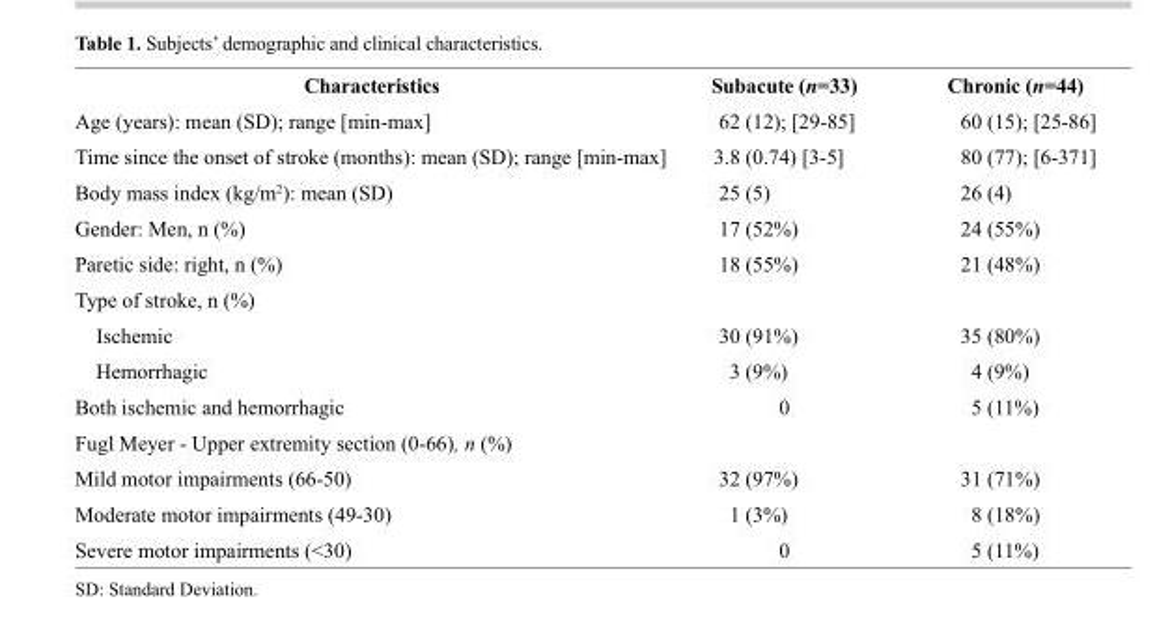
<table><thead><tr><td>Characteristics</td><td>Subacute (n=33)</td><td>Chronic (n=44)</td></tr></thead><tbody><tr><td>Age (years): mean (SD); range [min-max]</td><td>62 (12); [29-85]</td><td>60 (15); [25-86]</td></tr><tr><td>Time since the onset of stroke (months): mean (SD); range [min-max]</td><td>3.8 (0.74) [3-5]</td><td>80 (77); [6-371]</td></tr><tr><td>Body mass index (kg/m<sup>2)</sup>: mean (SD)</td><td>25 (5)</td><td>26 (4)</td></tr><tr><td>Gender: Men, n (%)</td><td>17 (52%)</td><td>24 (55%)</td></tr><tr><td>Paretic side: right, n (%)</td><td>18 (55%)</td><td>21 (48%)</td></tr><tr><td colspan="3">Type of stroke, n (%)</td></tr><tr><td>Ischemic</td><td>30 (91%)</td><td>35 (80%)</td></tr><tr><td>Hemorrhagic</td><td>3 (9%)</td><td>4 (9%)</td></tr><tr><td>Both ischemic and hemorrhagic</td><td>0</td><td>5 (11%)</td></tr><tr><td colspan="3">Fugl Meyer - Upper extremity section (0-66), n (%)</td></tr><tr><td>Mild motor impairments (66-50)</td><td>32 (97%)</td><td>31 (71%)</td></tr><tr><td>Moderate motor impairments (49-30)</td><td>1 (3%)</td><td>8 (18%)</td></tr><tr><td>Severe motor impairments (&lt;30)</td><td>0</td><td>5 (11%)</td></tr></tbody></table>